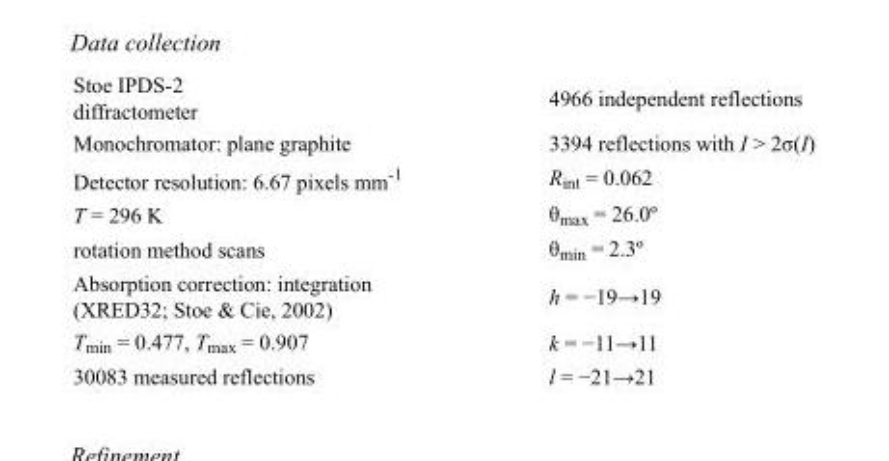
<table><tbody><tr><td>Stoe IPDS-2 diffractometer</td><td>4966 independent reflections</td></tr><tr><td>Monochromator: plane graphite</td><td>3394 reflections with I &gt; 2σ(I)</td></tr><tr><td>Detector resolution: 6.67 pixels mm<sup>-1</sup></td><td>R<sub>int</sub> = 0.062</td></tr><tr><td>T = 296 K</td><td>θ<sub>max</sub> = 26.0º</td></tr><tr><td>rotation method scans</td><td>θ<sub>min</sub> = 2.3º</td></tr><tr><td>Absorption correction: integration (XRED32; Stoe &amp; Cie, 2002)</td><td>h = −19→19</td></tr><tr><td>T<sub>min</sub> = 0.477, T<sub>max</sub> = 0.907</td><td>k = −11→11</td></tr><tr><td>30083 measured reflections</td><td>l = −21→21</td></tr></tbody></table>